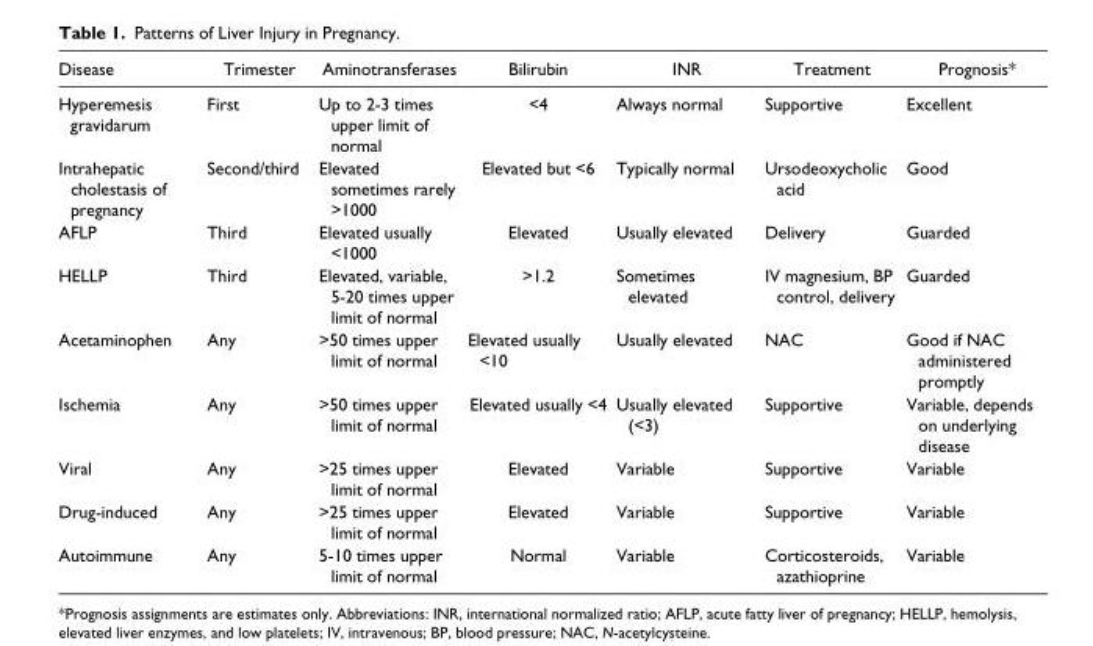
<table><thead><tr><td>Disease</td><td>Trimester</td><td>Aminotransferases</td><td>Bilirubin</td><td>INR</td><td>Treatment</td><td>Prognosis*</td></tr></thead><tbody><tr><td>Hyperemesis gravidarum</td><td>First</td><td>Up to 2-3 times upper limit of normal</td><td>&lt;4</td><td>Always normal</td><td>Supportive</td><td>Excellent</td></tr><tr><td>Intrahepatic cholestasis of pregnancy</td><td>Second/third</td><td>Elevated sometimes rarely &gt;1000</td><td>Elevated but &lt;6</td><td>Typically normal</td><td>Ursodeoxycholic acid</td><td>Good</td></tr><tr><td>AFLP</td><td>Third</td><td>Elevated usually &lt;1000</td><td>Elevated</td><td>Usually elevated</td><td>Delivery</td><td>Guarded</td></tr><tr><td>HELLP</td><td>Third</td><td>Elevated, variable, 5-20 times upper limit of normal</td><td>&gt;1.2</td><td>Sometimes elevated</td><td>IV magnesium, BP control, delivery</td><td>Guarded</td></tr><tr><td>Acetaminophen</td><td>Any</td><td>&gt;50 times upper limit of normal</td><td>Elevated usually &lt;10</td><td>Usually elevated</td><td>NAC</td><td>Good if NAC administered promptly</td></tr><tr><td>Ischemia</td><td>Any</td><td>&gt;50 times upper limit of normal</td><td>Elevated usually &lt;4</td><td>Usually elevated (&lt;3)</td><td>Supportive</td><td>Variable, depends on underlying disease</td></tr><tr><td>Viral</td><td>Any</td><td>&gt;25 times upper limit of normal</td><td>Elevated</td><td>Variable</td><td>Supportive</td><td>Variable</td></tr><tr><td>Drug-induced</td><td>Any</td><td>&gt;25 times upper limit of normal</td><td>Elevated</td><td>Variable</td><td>Supportive</td><td>Variable</td></tr><tr><td>Autoimmune</td><td>Any</td><td>5-10 times upper limit of normal</td><td>Normal</td><td>Variable</td><td>Corticosteroids, azathioprine</td><td>Variable</td></tr></tbody></table>